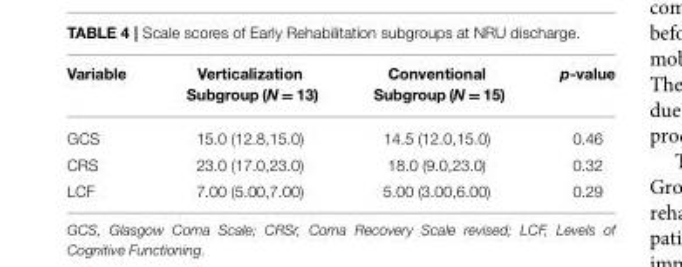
<table><thead><tr><td>Variable</td><td>Verticalization Subgroup (N = 13)</td><td>Conventional Subgroup (N = 15)</td><td>p-value</td></tr></thead><tbody><tr><td>GCS</td><td>15.0 (12.8,15.0)</td><td>14.5 (12.0,15.0)</td><td>0.46</td></tr><tr><td>CRS</td><td>23.0 (17.0,23.0)</td><td>18.0 (9.0,23.0)</td><td>0.32</td></tr><tr><td>LCF</td><td>7.00 (5.00,7.00)</td><td>5.00 (3.00,6.00)</td><td>0.29</td></tr></tbody></table>